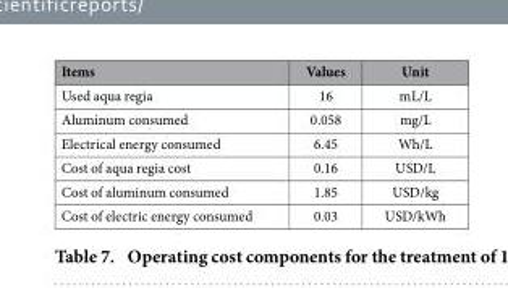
<table><thead><tr><td>Items</td><td>Values</td><td>Unit</td></tr></thead><tbody><tr><td>Used aqua regia</td><td>16</td><td>mL/L</td></tr><tr><td>Aluminum consumed</td><td>0.058</td><td>mg/L</td></tr><tr><td>Electrical energy consumed</td><td>6.45</td><td>Wh/L</td></tr><tr><td>Cost of aqua regia cost</td><td>0.16</td><td>USD/L</td></tr><tr><td>Cost of aluminum consumed</td><td>1.85</td><td>USD/kg</td></tr><tr><td>Cost of electric energy consumed</td><td>0.03</td><td>USD/kWh</td></tr></tbody></table>